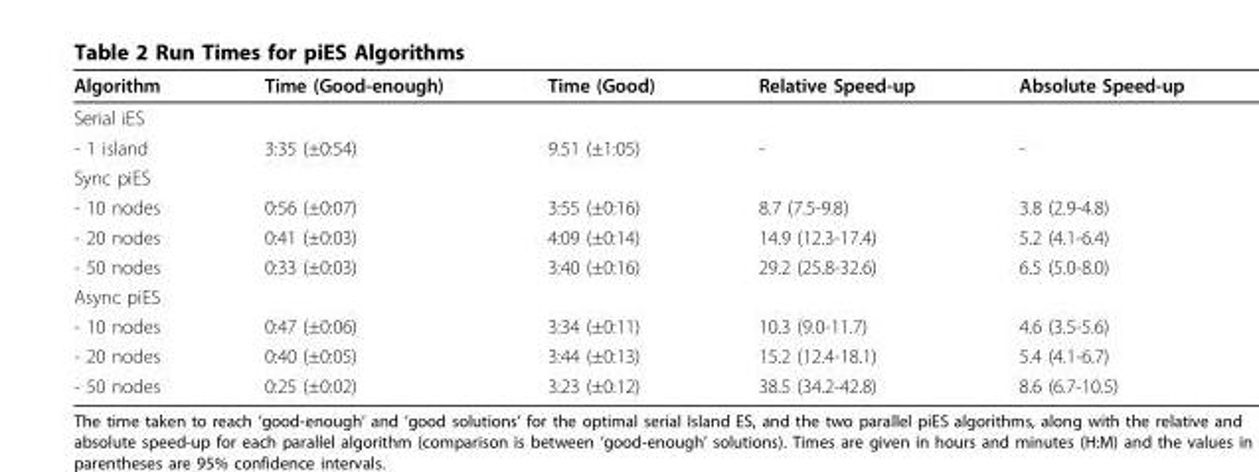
<table><thead><tr><td>Algorithm</td><td>Time (Good-enough)</td><td>Time (Good)</td><td>Relative Speed-up</td><td>Absolute Speed-up</td></tr></thead><tbody><tr><td colspan="5">Serial iES</td></tr><tr><td>- 1 island</td><td>3:35 (±0:54)</td><td>9.51 (±1:05)</td><td>-</td><td>-</td></tr><tr><td colspan="5">Sync piES</td></tr><tr><td>- 10 nodes</td><td>0:56 (±0:07)</td><td>3:55 (±0:16)</td><td>8.7 (7.5-9.8)</td><td>3.8 (2.9-4.8)</td></tr><tr><td>- 20 nodes</td><td>0:41 (±0:03)</td><td>4:09 (±0:14)</td><td>14.9 (12.3-17.4)</td><td>5.2 (4.1-6.4)</td></tr><tr><td>- 50 nodes</td><td>0:33 (±0:03)</td><td>3:40 (±0:16)</td><td>29.2 (25.8-32.6)</td><td>6.5 (5.0-8.0)</td></tr><tr><td colspan="5">Async piES</td></tr><tr><td>- 10 nodes</td><td>0:47 (±0:06)</td><td>3:34 (±0:11)</td><td>10.3 (9.0-11.7)</td><td>4.6 (3.5-5.6)</td></tr><tr><td>- 20 nodes</td><td>0:40 (±0:05)</td><td>3:44 (±0:13)</td><td>15.2 (12.4-18.1)</td><td>5.4 (4.1-6.7)</td></tr><tr><td>- 50 nodes</td><td>0:25 (±0:02)</td><td>3:23 (±0:12)</td><td>38.5 (34.2-42.8)</td><td>8.6 (6.7-10.5)</td></tr></tbody></table>